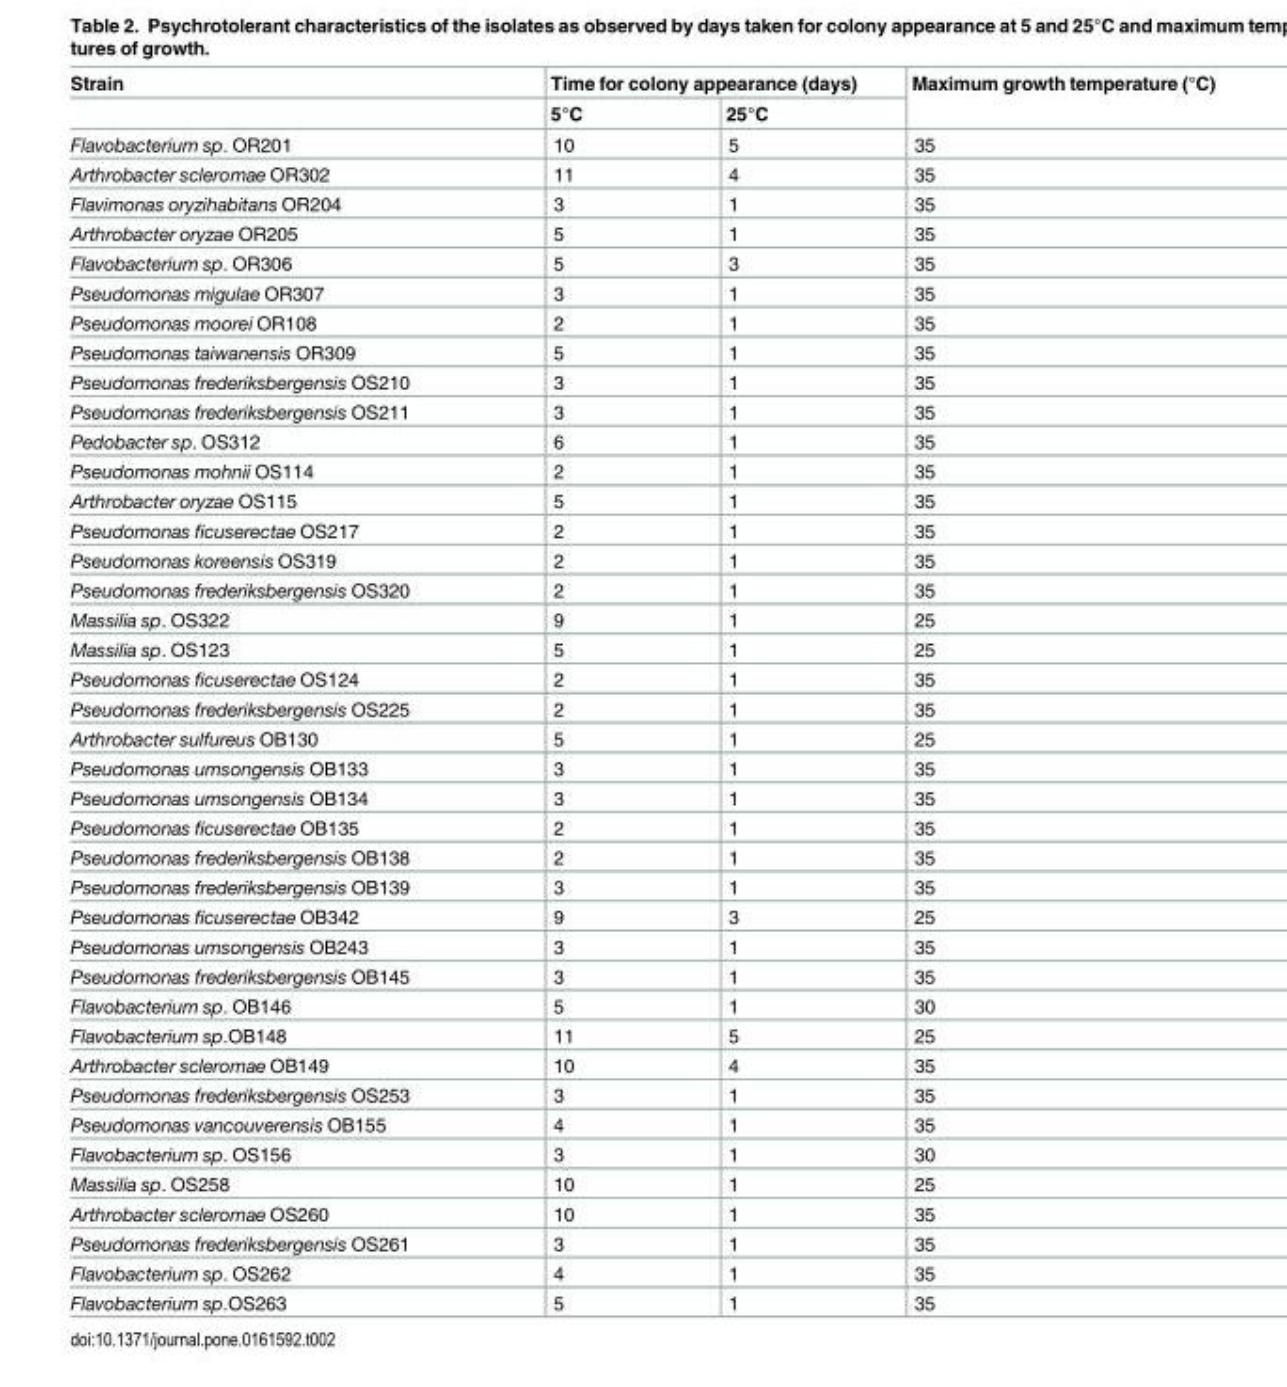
<table><thead><tr><td rowspan="2">Strain</td><td colspan="2">Time for colony appearance (days)</td><td rowspan="2">Maximum growth temperature (°C)</td></tr><tr><td>5°C</td><td>25°C</td></tr></thead><tbody><tr><td>Flavobacterium sp. OR201</td><td>10</td><td>5</td><td>35</td></tr><tr><td>Arthrobacter scleromae OR302</td><td>11</td><td>4</td><td>35</td></tr><tr><td>Flavimonas oryzihabitans OR204</td><td>3</td><td>1</td><td>35</td></tr><tr><td>Arthrobacter oryzae OR205</td><td>5</td><td>1</td><td>35</td></tr><tr><td>Flavobacterium sp. OR306</td><td>5</td><td>3</td><td>35</td></tr><tr><td>Pseudomonas migulae OR307</td><td>3</td><td>1</td><td>35</td></tr><tr><td>Pseudomonas moorei OR108</td><td>2</td><td>1</td><td>35</td></tr><tr><td>Pseudomonas taiwanensis OR309</td><td>5</td><td>1</td><td>35</td></tr><tr><td>Pseudomonas frederiksbergensis OS210</td><td>3</td><td>1</td><td>35</td></tr><tr><td>Pseudomonas frederiksbergensis OS211</td><td>3</td><td>1</td><td>35</td></tr><tr><td>Pedobacter sp. OS312</td><td>6</td><td>1</td><td>35</td></tr><tr><td>Pseudomonas mohnii OS114</td><td>2</td><td>1</td><td>35</td></tr><tr><td>Arthrobacter oryzae OS115</td><td>5</td><td>1</td><td>35</td></tr><tr><td>Pseudomonas ficuserectae OS217</td><td>2</td><td>1</td><td>35</td></tr><tr><td>Pseudomonas koreensis OS319</td><td>2</td><td>1</td><td>35</td></tr><tr><td>Pseudomonas frederiksbergensis OS320</td><td>2</td><td>1</td><td>35</td></tr><tr><td>Massilia sp. OS322</td><td>9</td><td>1</td><td>25</td></tr><tr><td>Massilia sp. OS123</td><td>5</td><td>1</td><td>25</td></tr><tr><td>Pseudomonas ficuserectae OS124</td><td>2</td><td>1</td><td>35</td></tr><tr><td>Pseudomonas frederiksbergensis OS225</td><td>2</td><td>1</td><td>35</td></tr><tr><td>Arthrobacter sulfureus OB130</td><td>5</td><td>1</td><td>25</td></tr><tr><td>Pseudomonas umsongensis OB133</td><td>3</td><td>1</td><td>35</td></tr><tr><td>Pseudomonas umsongensis OB134</td><td>3</td><td>1</td><td>35</td></tr><tr><td>Pseudomonas ficuserectae OB135</td><td>2</td><td>1</td><td>35</td></tr><tr><td>Pseudomonas frederiksbergensis OB138</td><td>2</td><td>1</td><td>35</td></tr><tr><td>Pseudomonas frederiksbergensis OB139</td><td>3</td><td>1</td><td>35</td></tr><tr><td>Pseudomonas ficuserectae OB342</td><td>9</td><td>3</td><td>25</td></tr><tr><td>Pseudomonas umsongensis OB243</td><td>3</td><td>1</td><td>35</td></tr><tr><td>Pseudomonas frederiksbergensis OB145</td><td>3</td><td>1</td><td>35</td></tr><tr><td>Flavobacterium sp. OB146</td><td>5</td><td>1</td><td>30</td></tr><tr><td>Flavobacterium sp.OB148</td><td>11</td><td>5</td><td>25</td></tr><tr><td>Arthrobacter scleromae OB149</td><td>10</td><td>4</td><td>35</td></tr><tr><td>Pseudomonas frederiksbergensis OS253</td><td>3</td><td>1</td><td>35</td></tr><tr><td>Pseudomonas vancouverensis OB155</td><td>4</td><td>1</td><td>35</td></tr><tr><td>Flavobacterium sp. OS156</td><td>3</td><td>1</td><td>30</td></tr><tr><td>Massilia sp. OS258</td><td>10</td><td>1</td><td>25</td></tr><tr><td>Arthrobacter scleromae OS260</td><td>10</td><td>1</td><td>35</td></tr><tr><td>Pseudomonas frederiksbergensis OS261</td><td>3</td><td>1</td><td>35</td></tr><tr><td>Flavobacterium sp. OS262</td><td>4</td><td>1</td><td>35</td></tr><tr><td>Flavobacterium sp.OS263</td><td>5</td><td>1</td><td>35</td></tr></tbody></table>